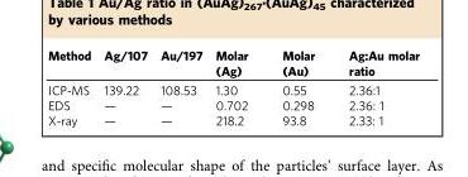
<table><thead><tr><td>Method</td><td>Ag/107</td><td>Au/197</td><td>Molar (Ag)</td><td>Molar (Au)</td><td>Ag:Au molar ratio</td></tr></thead><tbody><tr><td>ICP-MS</td><td>139.22</td><td>108.53</td><td>1.30</td><td>0.55</td><td>2.36:1</td></tr><tr><td>EDS</td><td>—</td><td>—</td><td>0.702</td><td>0.298</td><td>2.36: 1</td></tr><tr><td>X-ray</td><td>—</td><td>—</td><td>218.2</td><td>93.8</td><td>2.33: 1</td></tr></tbody></table>